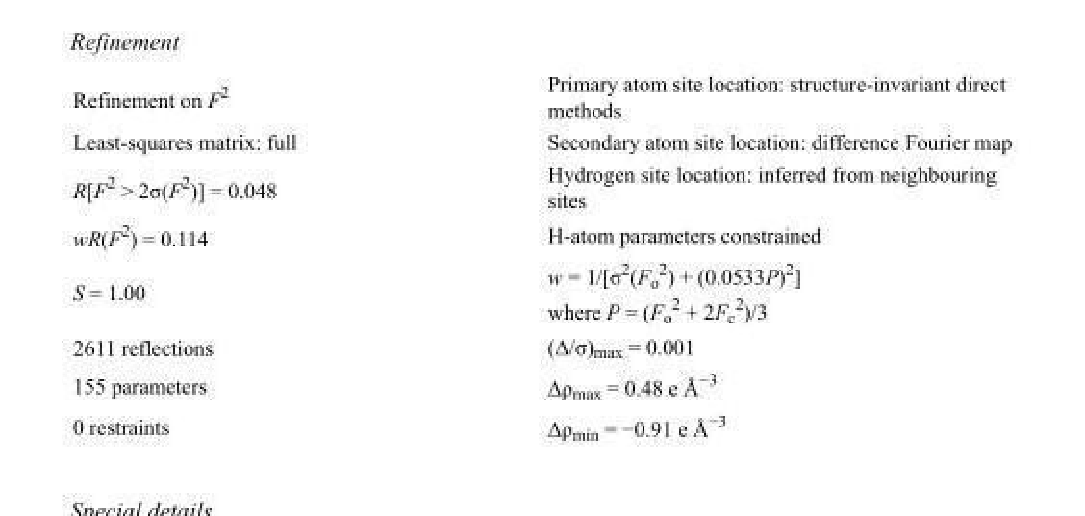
<table><tbody><tr><td>Refinement on F<sup>2</sup></td><td>Primary atom site location: structure-invariant direct methods</td></tr><tr><td>Least-squares matrix: full</td><td>Secondary atom site location: difference Fourier map</td></tr><tr><td>R[F<sup>2</sup> &gt; 2σ(F<sup>2</sup>)] = 0.048</td><td>Hydrogen site location: inferred from neighbouring sites</td></tr><tr><td>wR(F<sup>2</sup>) = 0.114</td><td>H-atom parameters constrained</td></tr><tr><td>S = 1.00</td><td>w = 1/[σ<sup>2</sup>(F<sub>o</sub> <sup>2</sup>) + (0.0533P)<sup>2</sup>] where P = (F<sub>o</sub> <sup>2</sup> + 2F<sub>c</sub> <sup>2</sup>)/3</td></tr><tr><td>2611 reflections</td><td>(Δ/σ)<sub>max</sub> = 0.001</td></tr><tr><td>155 parameters</td><td>Δρ<sub>max</sub> = 0.48 e Å<sup>−3</sup></td></tr><tr><td>0 restraints</td><td>Δρ<sub>min</sub> = −0.91 e Å<sup>−3</sup></td></tr></tbody></table>